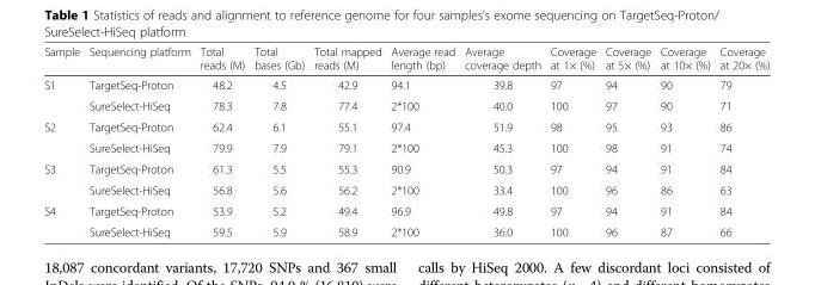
<table><thead><tr><td>Sample</td><td>Sequencing platform</td><td>Total reads (M)</td><td>Total bases (Gb)</td><td>Total mapped reads (M)</td><td>Average read length (bp)</td><td>Average coverage depth</td><td>Coverage at 1× (%)</td><td>Coverage at 5× (%)</td><td>Coverage at 10× (%)</td><td>Coverage at 20× (%)</td></tr></thead><tbody><tr><td rowspan="2">S1</td><td>TargetSeq-Proton</td><td>48.2</td><td>4.5</td><td>42.9</td><td>94.1</td><td>39.8</td><td>97</td><td>94</td><td>90</td><td>79</td></tr><tr><td>SureSelect-HiSeq</td><td>78.3</td><td>7.8</td><td>77.4</td><td>2*100</td><td>40.0</td><td>100</td><td>97</td><td>90</td><td>71</td></tr><tr><td rowspan="2">S2</td><td>TargetSeq-Proton</td><td>62.4</td><td>6.1</td><td>55.1</td><td>97.4</td><td>51.9</td><td>98</td><td>95</td><td>93</td><td>86</td></tr><tr><td>SureSelect-HiSeq</td><td>79.9</td><td>7.9</td><td>79.1</td><td>2*100</td><td>45.3</td><td>100</td><td>98</td><td>91</td><td>74</td></tr><tr><td rowspan="2">S3</td><td>TargetSeq-Proton</td><td>61.3</td><td>5.5</td><td>55.3</td><td>90.9</td><td>50.3</td><td>97</td><td>94</td><td>91</td><td>84</td></tr><tr><td>SureSelect-HiSeq</td><td>56.8</td><td>5.6</td><td>56.2</td><td>2*100</td><td>33.4</td><td>100</td><td>96</td><td>86</td><td>63</td></tr><tr><td rowspan="2">S4</td><td>TargetSeq-Proton</td><td>53.9</td><td>5.2</td><td>49.4</td><td>96.9</td><td>49.8</td><td>97</td><td>94</td><td>91</td><td>84</td></tr><tr><td>SureSelect-HiSeq</td><td>59.5</td><td>5.9</td><td>58.9</td><td>2*100</td><td>36.0</td><td>100</td><td>96</td><td>87</td><td>66</td></tr></tbody></table>